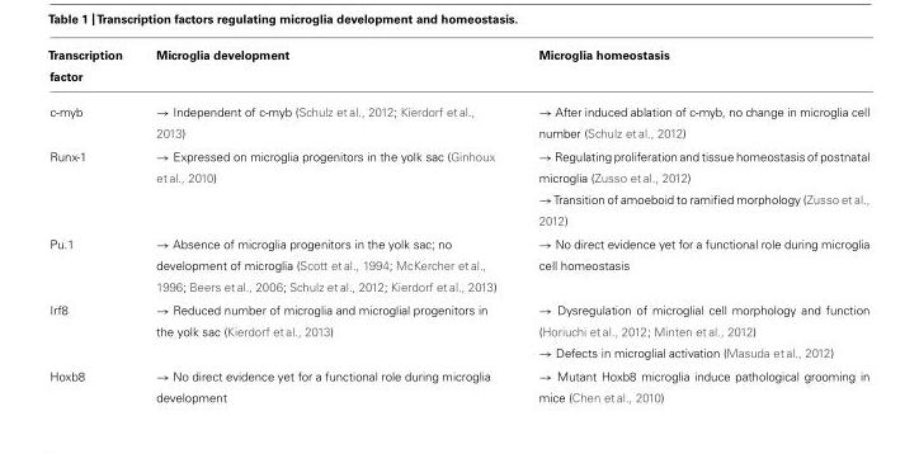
<table><thead><tr><td>Transcription factor</td><td>Microglia development</td><td>Microglia homeostasis</td></tr></thead><tbody><tr><td>c-myb</td><td>→ Independent of c-myb (Schulz et al., 2012; Kierdorf et al., 2013)</td><td>→ After induced ablation of c-myb, no change in microglia cell number (Schulz et al., 2012)</td></tr><tr><td rowspan="2">Runx-1</td><td>→ Expressed on microglia progenitors in the yolk sac (Ginhoux et al., 2010)</td><td>→ Regulating proliferation and tissue homeostasis of postnatal microglia (Zusso et al., 2012)</td></tr><tr><td></td><td>→Transition of amoeboid to ramified morphology (Zusso et al., 2012)</td></tr><tr><td>Pu.1</td><td>→ Absence of microglia progenitors in the yolk sac; no development of microglia (Scott et al., 1994; McKercher et al., 1996; Beers et al., 2006; Schulz et al., 2012; Kierdorf et al., 2013)</td><td>→ No direct evidence yet for a functional role during microglia cell homeostasis</td></tr><tr><td rowspan="2">Irf8</td><td>→ Reduced number of microglia and microglial progenitors in the yolk sac (Kierdorf et al., 2013)</td><td>→ Dysregulation of microglial cell morphology and function (Horiuchi et al., 2012; Minten et al., 2012)</td></tr><tr><td></td><td>→ Defects in microglial activation (Masuda et al., 2012)</td></tr><tr><td>Hoxb8</td><td>→ No direct evidence yet for a functional role during microglia development</td><td>→ Mutant Hoxb8 microglia induce pathological grooming in mice (Chen et al., 2010)</td></tr></tbody></table>